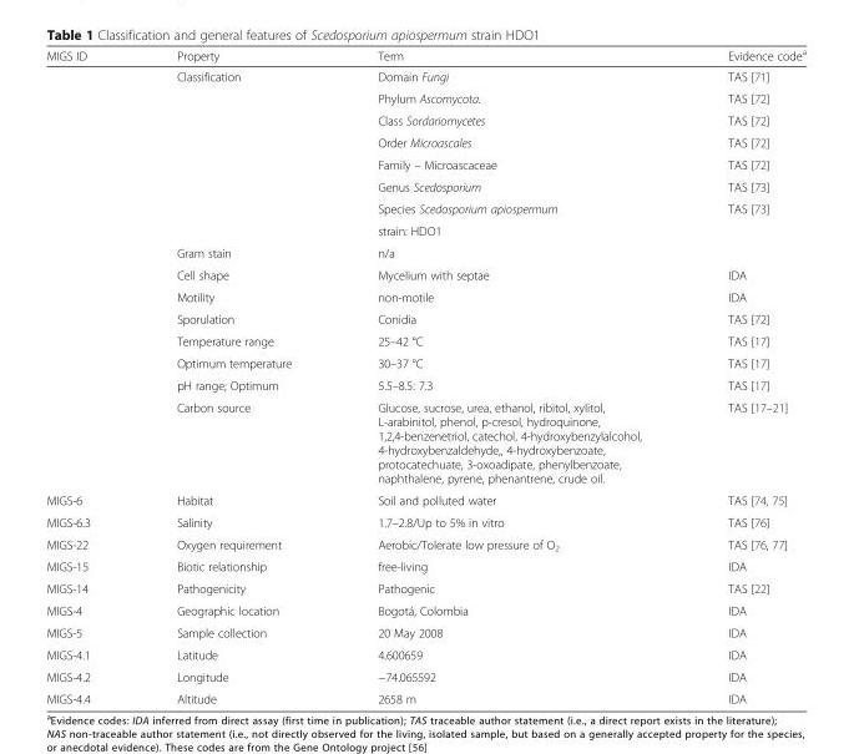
<table><thead><tr><td>MIGS ID</td><td>Property</td><td>Term</td><td>Evidence code<sup>a</sup></td></tr></thead><tbody><tr><td></td><td>Classification</td><td>Domain Fungi</td><td>TAS [71]</td></tr><tr><td></td><td></td><td>Phylum Ascomycota.</td><td>TAS [72]</td></tr><tr><td></td><td></td><td>Class Sordariomycetes</td><td>TAS [72]</td></tr><tr><td></td><td></td><td>Order Microascales</td><td>TAS [72]</td></tr><tr><td></td><td></td><td>Family – Microascaceae</td><td>TAS [72]</td></tr><tr><td></td><td></td><td>Genus Scedosporium</td><td>TAS [73]</td></tr><tr><td></td><td></td><td>Species Scedosporium apiospermum</td><td>TAS [73]</td></tr><tr><td></td><td></td><td>strain: HDO1</td><td></td></tr><tr><td></td><td>Gram stain</td><td>n/a</td><td></td></tr><tr><td></td><td>Cell shape</td><td>Mycelium with septae</td><td>IDA</td></tr><tr><td></td><td>Motility</td><td>non-motile</td><td>IDA</td></tr><tr><td></td><td>Sporulation</td><td>Conidia</td><td>TAS [72]</td></tr><tr><td></td><td>Temperature range</td><td>25–42 °C</td><td>TAS [17]</td></tr><tr><td></td><td>Optimum temperature</td><td>30–37 °C</td><td>TAS [17]</td></tr><tr><td></td><td>pH range; Optimum</td><td>5.5–8.5: 7.3</td><td>TAS [17]</td></tr><tr><td></td><td>Carbon source</td><td>Glucose, sucrose, urea, ethanol, ribitol, xylitol, L-arabinitol, phenol, p-cresol, hydroquinone, 1,2,4-benzenetriol, catechol, 4-hydroxybenzylalcohol, 4-hydroxybenzaldehyde,, 4-hydroxybenzoate, protocatechuate, 3-oxoadipate, phenylbenzoate, naphthalene, pyrene, phenantrene, crude oil.</td><td>TAS [17–21]</td></tr><tr><td>MIGS-6</td><td>Habitat</td><td>Soil and polluted water</td><td>TAS [74, 75]</td></tr><tr><td>MIGS-6.3</td><td>Salinity</td><td>1.7–2.8/Up to 5% in vitro</td><td>TAS [76]</td></tr><tr><td>MIGS-22</td><td>Oxygen requirement</td><td>Aerobic/Tolerate low pressure of O<sub>2</sub></td><td>TAS [76, 77]</td></tr><tr><td>MIGS-15</td><td>Biotic relationship</td><td>free-living</td><td>IDA</td></tr><tr><td>MIGS-14</td><td>Pathogenicity</td><td>Pathogenic</td><td>TAS [22]</td></tr><tr><td>MIGS-4</td><td>Geographic location</td><td>Bogotá, Colombia</td><td>IDA</td></tr><tr><td>MIGS-5</td><td>Sample collection</td><td>20 May 2008</td><td>IDA</td></tr><tr><td>MIGS-4.1</td><td>Latitude</td><td>4.600659</td><td>IDA</td></tr><tr><td>MIGS-4.2</td><td>Longitude</td><td>−74.065592</td><td>IDA</td></tr><tr><td>MIGS-4.4</td><td>Altitude</td><td>2658 m</td><td>IDA</td></tr></tbody></table>